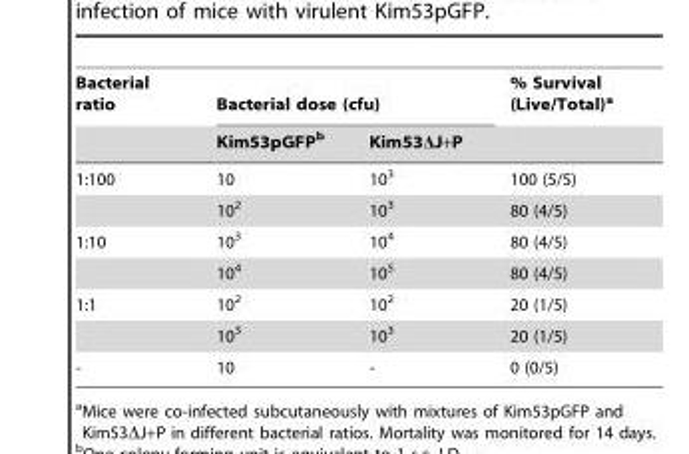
<table><thead><tr><td rowspan="2">Bacterial ratio</td><td colspan="2">Bacterial dose (cfu)</td><td rowspan="2">% Survival (Live/Total)<sup>a</sup></td></tr><tr><td>Kim53pGFP<sup>b</sup></td><td>Kim53ΔJ+P</td></tr></thead><tbody><tr><td rowspan="2">1:100</td><td>10</td><td>10<sup>3</sup></td><td>100 (5/5)</td></tr><tr><td>10<sup>2</sup></td><td>10<sup>3</sup></td><td>80 (4/5)</td></tr><tr><td rowspan="2">1:10</td><td>10<sup>3</sup></td><td>10<sup>4</sup></td><td>80 (4/5)</td></tr><tr><td>10<sup>4</sup></td><td>10<sup>5</sup></td><td>80 (4/5)</td></tr><tr><td rowspan="2">1:1</td><td>10<sup>2</sup></td><td>10<sup>2</sup></td><td>20 (1/5)</td></tr><tr><td>10<sup>3</sup></td><td>10<sup>3</sup></td><td>20 (1/5)</td></tr><tr><td>-</td><td>10</td><td>-</td><td>0 (0/5)</td></tr></tbody></table>